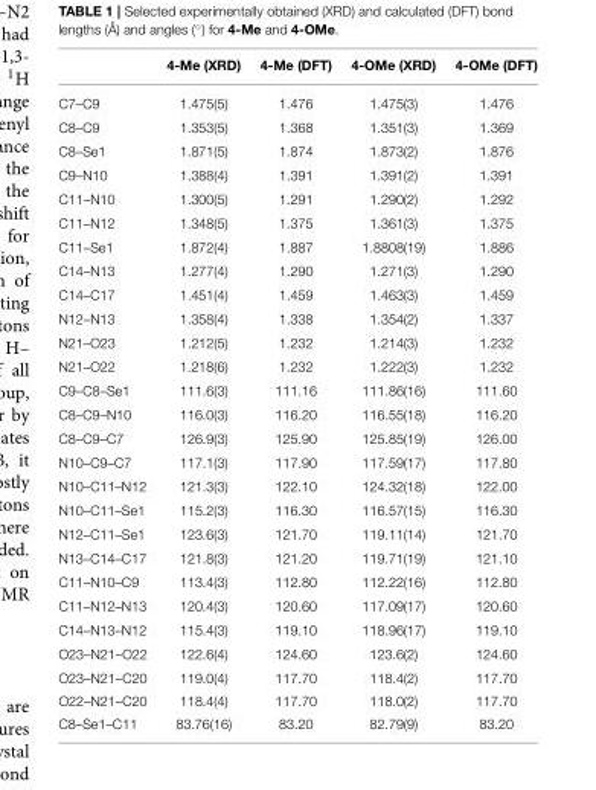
<table><thead><tr><td></td><td>4-Me (XRD)</td><td>4-Me (DFT)</td><td>4-OMe (XRD)</td><td>4-OMe (DFT)</td></tr></thead><tbody><tr><td>C7–C9</td><td>1.475(5)</td><td>1.476</td><td>1.475(3)</td><td>1.476</td></tr><tr><td>C8–C9</td><td>1.353(5)</td><td>1.368</td><td>1.351(3)</td><td>1.369</td></tr><tr><td>C8–Se1</td><td>1.871(5)</td><td>1.874</td><td>1.873(2)</td><td>1.876</td></tr><tr><td>C9–N10</td><td>1.388(4)</td><td>1.391</td><td>1.391(2)</td><td>1.391</td></tr><tr><td>C11–N10</td><td>1.300(5)</td><td>1.291</td><td>1.290(2)</td><td>1.292</td></tr><tr><td>C11–N12</td><td>1.348(5)</td><td>1.375</td><td>1.361(3)</td><td>1.375</td></tr><tr><td>C11–Se1</td><td>1.872(4)</td><td>1.887</td><td>1.8808(19)</td><td>1.886</td></tr><tr><td>C14–N13</td><td>1.277(4)</td><td>1.290</td><td>1.271(3)</td><td>1.290</td></tr><tr><td>C14–C17</td><td>1.451(4)</td><td>1.459</td><td>1.463(3)</td><td>1.459</td></tr><tr><td>N12–N13</td><td>1.358(4)</td><td>1.338</td><td>1.354(2)</td><td>1.337</td></tr><tr><td>N21–O23</td><td>1.212(5)</td><td>1.232</td><td>1.214(3)</td><td>1.232</td></tr><tr><td>N21–O22</td><td>1.218(6)</td><td>1.232</td><td>1.222(3)</td><td>1.232</td></tr><tr><td>C9–C8–Se1</td><td>111.6(3)</td><td>111.16</td><td>111.86(16)</td><td>111.60</td></tr><tr><td>C8–C9–N10</td><td>116.0(3)</td><td>116.20</td><td>116.55(18)</td><td>116.20</td></tr><tr><td>C8–C9–C7</td><td>126.9(3)</td><td>125.90</td><td>125.85(19)</td><td>126.00</td></tr><tr><td>N10–C9–C7</td><td>117.1(3)</td><td>117.90</td><td>117.59(17)</td><td>117.80</td></tr><tr><td>N10–C11–N12</td><td>121.3(3)</td><td>122.10</td><td>124.32(18)</td><td>122.00</td></tr><tr><td>N10–C11–Se1</td><td>115.2(3)</td><td>116.30</td><td>116.57(15)</td><td>116.30</td></tr><tr><td>N12–C11–Se1</td><td>123.6(3)</td><td>121.70</td><td>119.11(14)</td><td>121.70</td></tr><tr><td>N13–C14–C17</td><td>121.8(3)</td><td>121.20</td><td>119.71(19)</td><td>121.10</td></tr><tr><td>C11–N10–C9</td><td>113.4(3)</td><td>112.80</td><td>112.22(16)</td><td>112.80</td></tr><tr><td>C11–N12–N13</td><td>120.4(3)</td><td>120.60</td><td>117.09(17)</td><td>120.60</td></tr><tr><td>C14–N13–N12</td><td>115.4(3)</td><td>119.10</td><td>118.96(17)</td><td>119.10</td></tr><tr><td>O23–N21–O22</td><td>122.6(4)</td><td>124.60</td><td>123.6(2)</td><td>124.60</td></tr><tr><td>O23–N21–C20</td><td>119.0(4)</td><td>117.70</td><td>118.4(2)</td><td>117.70</td></tr><tr><td>O22–N21–C20</td><td>118.4(4)</td><td>117.70</td><td>118.0(2)</td><td>117.70</td></tr><tr><td>C8–Se1–C11</td><td>83.76(16)</td><td>83.20</td><td>82.79(9)</td><td>83.20</td></tr></tbody></table>